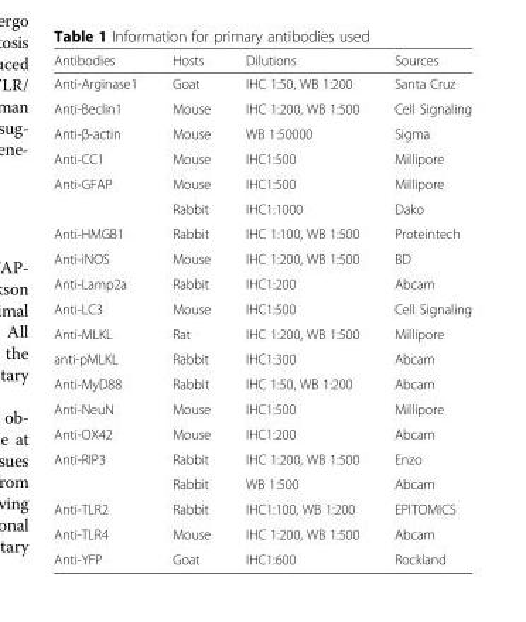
<table><thead><tr><td>Antibodies</td><td>Hosts</td><td>Dilutions</td><td>Sources</td></tr></thead><tbody><tr><td>Anti-Arginase1</td><td>Goat</td><td>IHC 1:50, WB 1:200</td><td>Santa Cruz</td></tr><tr><td>Anti-Beclin1</td><td>Mouse</td><td>IHC 1:200, WB 1:500</td><td>Cell Signaling</td></tr><tr><td>Anti-β-actin</td><td>Mouse</td><td>WB 1:50000</td><td>Sigma</td></tr><tr><td>Anti-CC1</td><td>Mouse</td><td>IHC1:500</td><td>Millipore</td></tr><tr><td rowspan="2">Anti-GFAP</td><td>Mouse</td><td>IHC1:500</td><td>Millipore</td></tr><tr><td>Rabbit</td><td>IHC1:1000</td><td>Dako</td></tr><tr><td>Anti-HMGB1</td><td>Rabbit</td><td>IHC 1:100, WB 1:500</td><td>Proteintech</td></tr><tr><td>Anti-iNOS</td><td>Mouse</td><td>IHC 1:200, WB 1:500</td><td>BD</td></tr><tr><td>Anti-Lamp2a</td><td>Rabbit</td><td>IHC1:200</td><td>Abcam</td></tr><tr><td>Anti-LC3</td><td>Mouse</td><td>IHC1:500</td><td>Cell Signaling</td></tr><tr><td>Anti-MLKL</td><td>Rat</td><td>IHC 1:200, WB 1:500</td><td>Millipore</td></tr><tr><td>anti-pMLKL</td><td>Rabbit</td><td>IHC1:300</td><td>Abcam</td></tr><tr><td>Anti-MyD88</td><td>Rabbit</td><td>IHC 1:50, WB 1:200</td><td>Abcam</td></tr><tr><td>Anti-NeuN</td><td>Mouse</td><td>IHC1:500</td><td>Millipore</td></tr><tr><td>Anti-OX42</td><td>Mouse</td><td>IHC1:200</td><td>Abcam</td></tr><tr><td rowspan="2">Anti-RIP3</td><td>Rabbit</td><td>IHC 1:200, WB 1:500</td><td>Enzo</td></tr><tr><td>Rabbit</td><td>WB 1:500</td><td>Abcam</td></tr><tr><td>Anti-TLR2</td><td>Rabbit</td><td>IHC1:100, WB 1:200</td><td>EPITOMICS</td></tr><tr><td>Anti-TLR4</td><td>Mouse</td><td>IHC 1:200, WB 1:500</td><td>Abcam</td></tr><tr><td>Anti-YFP</td><td>Goat</td><td>IHC1:600</td><td>Rockland</td></tr></tbody></table>